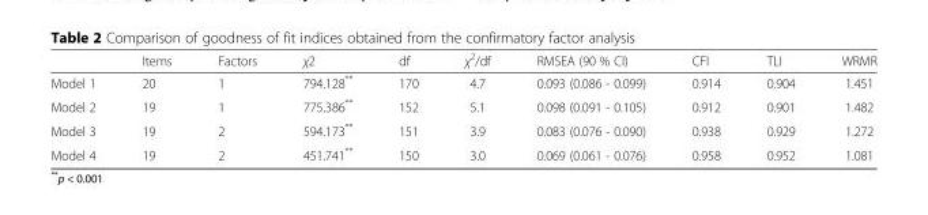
<table><thead><tr><td></td><td>Items</td><td>Factors</td><td>χ2</td><td>df</td><td>χ<sup>2</sup>/df</td><td>RMSEA (90 % CI)</td><td>CFI</td><td>TLI</td><td>WRMR</td></tr></thead><tbody><tr><td>Model 1</td><td>20</td><td>1</td><td>794.128**</td><td>170</td><td>4.7</td><td>0.093 (0.086 - 0.099)</td><td>0.914</td><td>0.904</td><td>1.451</td></tr><tr><td>Model 2</td><td>19</td><td>1</td><td>775.386**</td><td>152</td><td>5.1</td><td>0.098 (0.091 - 0.105)</td><td>0.912</td><td>0.901</td><td>1.482</td></tr><tr><td>Model 3</td><td>19</td><td>2</td><td>594.173**</td><td>151</td><td>3.9</td><td>0.083 (0.076 - 0.090)</td><td>0.938</td><td>0.929</td><td>1.272</td></tr><tr><td>Model 4</td><td>19</td><td>2</td><td>451.741**</td><td>150</td><td>3.0</td><td>0.069 (0.061 - 0.076)</td><td>0.958</td><td>0.952</td><td>1.081</td></tr></tbody></table>